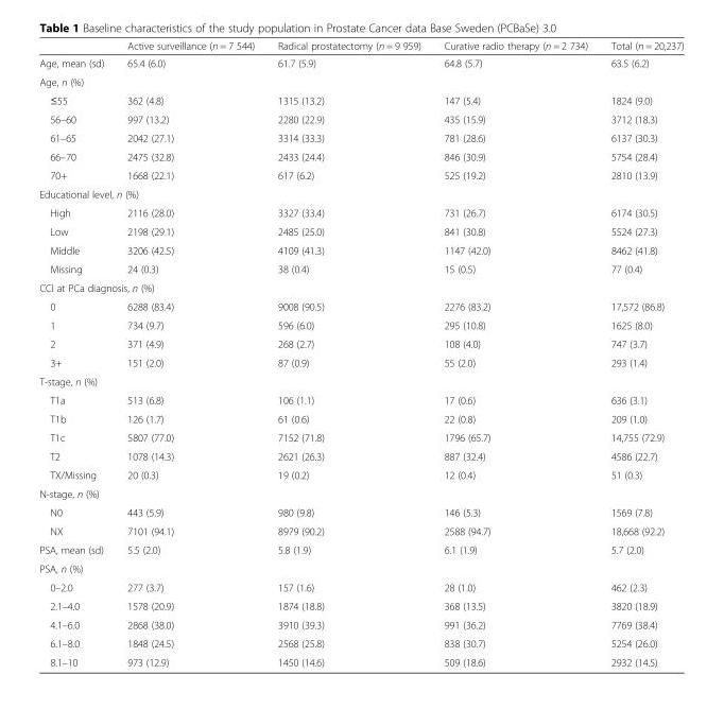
<table><thead><tr><td></td><td>Active surveillance (n = 7 544)</td><td>Radical prostatectomy (n = 9 959)</td><td>Curative radio therapy (n = 2 734)</td><td>Total (n = 20,237)</td></tr></thead><tbody><tr><td>Age, mean (sd)</td><td>65.4 (6.0)</td><td>61.7 (5.9)</td><td>64.8 (5.7)</td><td>63.5 (6.2)</td></tr><tr><td colspan="5">Age, n (%)</td></tr><tr><td>≤55</td><td>362 (4.8)</td><td>1315 (13.2)</td><td>147 (5.4)</td><td>1824 (9.0)</td></tr><tr><td>56–60</td><td>997 (13.2)</td><td>2280 (22.9)</td><td>435 (15.9)</td><td>3712 (18.3)</td></tr><tr><td>61–65</td><td>2042 (27.1)</td><td>3314 (33.3)</td><td>781 (28.6)</td><td>6137 (30.3)</td></tr><tr><td>66–70</td><td>2475 (32.8)</td><td>2433 (24.4)</td><td>846 (30.9)</td><td>5754 (28.4)</td></tr><tr><td>70+</td><td>1668 (22.1)</td><td>617 (6.2)</td><td>525 (19.2)</td><td>2810 (13.9)</td></tr><tr><td colspan="5">Educational level, n (%)</td></tr><tr><td>High</td><td>2116 (28.0)</td><td>3327 (33.4)</td><td>731 (26.7)</td><td>6174 (30.5)</td></tr><tr><td>Low</td><td>2198 (29.1)</td><td>2485 (25.0)</td><td>841 (30.8)</td><td>5524 (27.3)</td></tr><tr><td>Middle</td><td>3206 (42.5)</td><td>4109 (41.3)</td><td>1147 (42.0)</td><td>8462 (41.8)</td></tr><tr><td>Missing</td><td>24 (0.3)</td><td>38 (0.4)</td><td>15 (0.5)</td><td>77 (0.4)</td></tr><tr><td colspan="5">CCI at PCa diagnosis, n (%)</td></tr><tr><td>0</td><td>6288 (83.4)</td><td>9008 (90.5)</td><td>2276 (83.2)</td><td>17,572 (86.8)</td></tr><tr><td>1</td><td>734 (9.7)</td><td>596 (6.0)</td><td>295 (10.8)</td><td>1625 (8.0)</td></tr><tr><td>2</td><td>371 (4.9)</td><td>268 (2.7)</td><td>108 (4.0)</td><td>747 (3.7)</td></tr><tr><td>3+</td><td>151 (2.0)</td><td>87 (0.9)</td><td>55 (2.0)</td><td>293 (1.4)</td></tr><tr><td colspan="5">T-stage, n (%)</td></tr><tr><td>T1a</td><td>513 (6.8)</td><td>106 (1.1)</td><td>17 (0.6)</td><td>636 (3.1)</td></tr><tr><td>T1b</td><td>126 (1.7)</td><td>61 (0.6)</td><td>22 (0.8)</td><td>209 (1.0)</td></tr><tr><td>T1c</td><td>5807 (77.0)</td><td>7152 (71.8)</td><td>1796 (65.7)</td><td>14,755 (72.9)</td></tr><tr><td>T2</td><td>1078 (14.3)</td><td>2621 (26.3)</td><td>887 (32.4)</td><td>4586 (22.7)</td></tr><tr><td>TX/Missing</td><td>20 (0.3)</td><td>19 (0.2)</td><td>12 (0.4)</td><td>51 (0.3)</td></tr><tr><td colspan="5">N-stage, n (%)</td></tr><tr><td>N0</td><td>443 (5.9)</td><td>980 (9.8)</td><td>146 (5.3)</td><td>1569 (7.8)</td></tr><tr><td>NX</td><td>7101 (94.1)</td><td>8979 (90.2)</td><td>2588 (94.7)</td><td>18,668 (92.2)</td></tr><tr><td>PSA, mean (sd)</td><td>5.5 (2.0)</td><td>5.8 (1.9)</td><td>6.1 (1.9)</td><td>5.7 (2.0)</td></tr><tr><td colspan="5">PSA, n (%)</td></tr><tr><td>0–2.0</td><td>277 (3.7)</td><td>157 (1.6)</td><td>28 (1.0)</td><td>462 (2.3)</td></tr><tr><td>2.1–4.0</td><td>1578 (20.9)</td><td>1874 (18.8)</td><td>368 (13.5)</td><td>3820 (18.9)</td></tr><tr><td>4.1–6.0</td><td>2868 (38.0)</td><td>3910 (39.3)</td><td>991 (36.2)</td><td>7769 (38.4)</td></tr><tr><td>6.1–8.0</td><td>1848 (24.5)</td><td>2568 (25.8)</td><td>838 (30.7)</td><td>5254 (26.0)</td></tr><tr><td>8.1–10</td><td>973 (12.9)</td><td>1450 (14.6)</td><td>509 (18.6)</td><td>2932 (14.5)</td></tr></tbody></table>